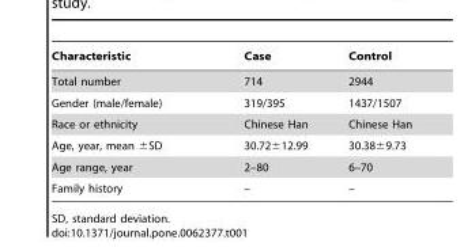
<table><thead><tr><td>Characteristic</td><td>Case</td><td>Control</td></tr></thead><tbody><tr><td>Total number</td><td>714</td><td>2944</td></tr><tr><td>Gender (male/female)</td><td>319/395</td><td>1437/1507</td></tr><tr><td>Race or ethnicity</td><td>Chinese Han</td><td>Chinese Han</td></tr><tr><td>Age, year, mean ±SD</td><td>30.72±12.99</td><td>30.38±9.73</td></tr><tr><td>Age range, year</td><td>2–80</td><td>6–70</td></tr><tr><td>Family history</td><td>–</td><td>–</td></tr></tbody></table>